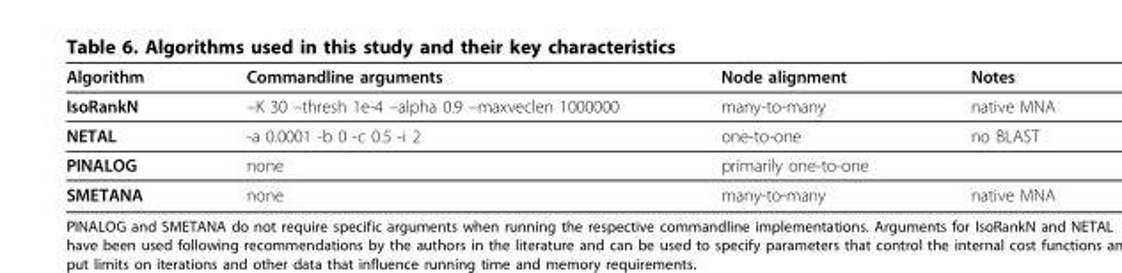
<table><thead><tr><td>Algorithm</td><td>Commandline arguments</td><td>Node alignment</td><td>Notes</td></tr></thead><tbody><tr><td>IsoRankN</td><td>–K 30 –thresh 1e-4 –alpha 0.9 –maxveclen 1000000</td><td>many-to-many</td><td>native MNA</td></tr><tr><td>NETAL</td><td>-a 0.0001 -b 0 -c 0.5 -i 2</td><td>one-to-one</td><td>no BLAST</td></tr><tr><td>PINALOG</td><td>none</td><td>primarily one-to-one</td><td></td></tr><tr><td>SMETANA</td><td>none</td><td>many-to-many</td><td>native MNA</td></tr></tbody></table>